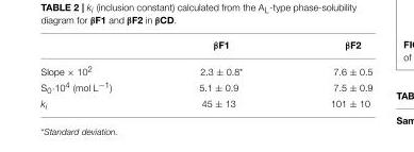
<table><thead><tr><td></td><td>βF1</td><td>βF2</td></tr></thead><tbody><tr><td>Slope × 10<sup>2</sup></td><td>2.3 ± 0.8*</td><td>7.6 ± 0.5</td></tr><tr><td>S<sub>0</sub>·10<sup>4</sup> (mol L<sup>−1</sup>)</td><td>5.1 ± 0.9</td><td>7.5 ± 0.9</td></tr><tr><td>ki</td><td>45 ± 13</td><td>101 ± 10</td></tr></tbody></table>